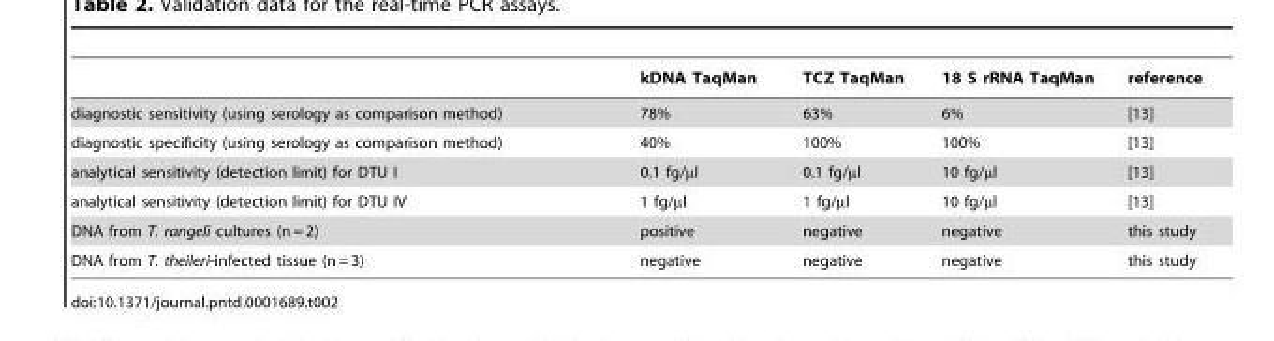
<table><thead><tr><td></td><td>kDNA TaqMan</td><td>TCZ TaqMan</td><td>18 S rRNA TaqMan</td><td>reference</td></tr></thead><tbody><tr><td>diagnostic sensitivity (using serology as comparison method)</td><td>78%</td><td>63%</td><td>6%</td><td>[13]</td></tr><tr><td>diagnostic specificity (using serology as comparison method)</td><td>40%</td><td>100%</td><td>100%</td><td>[13]</td></tr><tr><td>analytical sensitivity (detection limit) for DTU I</td><td>0.1 fg/µl</td><td>0.1 fg/µl</td><td>10 fg/µl</td><td>[13]</td></tr><tr><td>analytical sensitivity (detection limit) for DTU IV</td><td>1 fg/µl</td><td>1 fg/µl</td><td>10 fg/µl</td><td>[13]</td></tr><tr><td>DNA from T. rangeli cultures (n = 2)</td><td>positive</td><td>negative</td><td>negative</td><td>this study</td></tr><tr><td>DNA from T. theileri-infected tissue (n = 3)</td><td>negative</td><td>negative</td><td>negative</td><td>this study</td></tr></tbody></table>